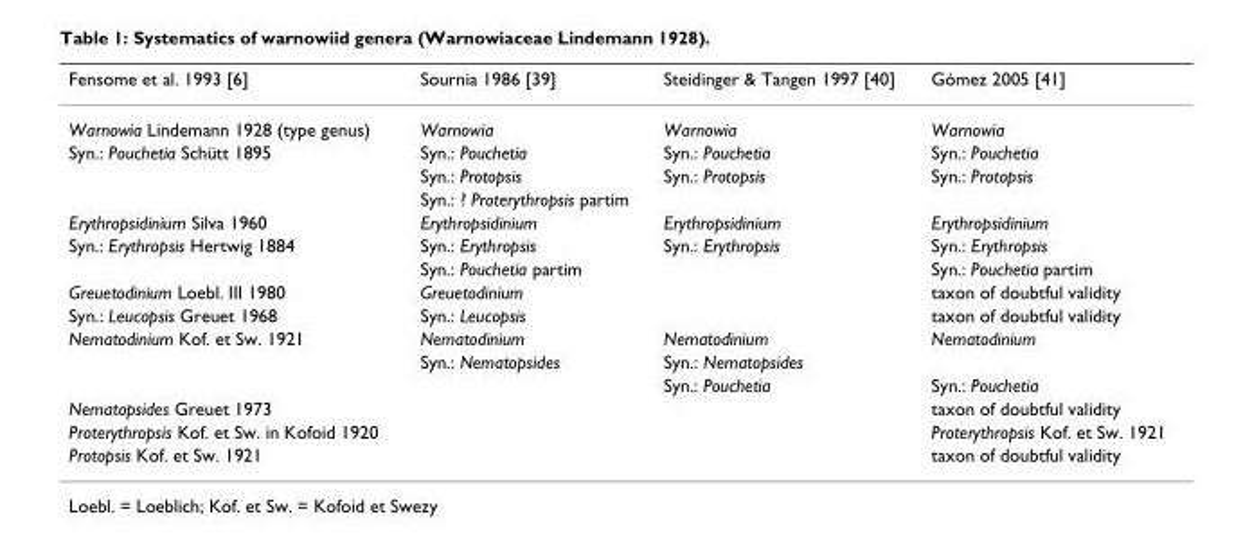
<table><thead><tr><td>Fensome et al. 1993 [6]</td><td>Sournia 1986 [39]</td><td>Steidinger &amp; Tangen 1997 [40]</td><td>Gómez 2005 [41]</td></tr></thead><tbody><tr><td>Warnowia Lindemann 1928 (type genus)</td><td>Warnowia</td><td>Warnowia</td><td>Warnowia</td></tr><tr><td rowspan="3">Syn.: Pouchetia Schütt 1895</td><td>Syn.: Pouchetia</td><td>Syn.: Pouchetia</td><td>Syn.: Pouchetia</td></tr><tr><td>Syn.: Protopsis</td><td>Syn.: Protopsis</td><td>Syn.: Protopsis</td></tr><tr><td>Syn.: ? Proterythropsis partim</td><td></td><td></td></tr><tr><td>Erythropsidinium Silva 1960</td><td>Erythropsidinium</td><td>Erythropsidinium</td><td>Erythropsidinium</td></tr><tr><td rowspan="2">Syn.: Erythropsis Hertwig 1884</td><td>Syn.: Erythropsis</td><td>Syn.: Erythropsis</td><td>Syn.: Erythropsis</td></tr><tr><td>Syn.: Pouchetia partim</td><td></td><td>Syn.: Pouchetia partim</td></tr><tr><td>Greuetodinium Loebl. III 1980</td><td>Greuetodinium</td><td></td><td>taxon of doubtful validity</td></tr><tr><td>Syn.: Leucopsis Greuet 1968</td><td>Syn.: Leucopsis</td><td></td><td>taxon of doubtful validity</td></tr><tr><td rowspan="3">Nematodinium Kof. et Sw. 1921</td><td>Nematodinium</td><td>Nematodinium</td><td>Nematodinium</td></tr><tr><td>Syn.: Nematopsides</td><td>Syn.: Nematopsides</td><td></td></tr><tr><td></td><td>Syn.: Pouchetia</td><td>Syn.: Pouchetia</td></tr><tr><td>Nematopsides Greuet 1973</td><td></td><td></td><td>taxon of doubtful validity</td></tr><tr><td>Proterythropsis Kof. et Sw. in Kofoid 1920</td><td></td><td></td><td>Proterythropsis Kof. et Sw. 1921</td></tr><tr><td>Protopsis Kof. et Sw. 1921</td><td></td><td></td><td>taxon of doubtful validity</td></tr></tbody></table>